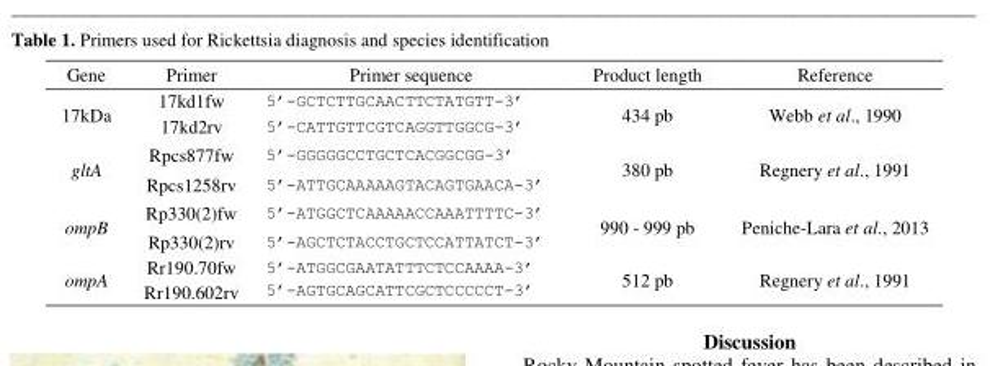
<table><thead><tr><td>Gene</td><td>Primer</td><td>Primer sequence</td><td>Product length</td><td>Reference</td></tr></thead><tbody><tr><td rowspan="2">17kDa</td><td>17kd1fw</td><td>5’-GCTCTTGCAACTTCTATGTT-3’</td><td rowspan="2">434 pb</td><td rowspan="2">Webb et al., 1990</td></tr><tr><td>17kd2rv</td><td>5’-CATTGTTCGTCAGGTTGGCG-3’</td></tr><tr><td rowspan="2">gltA</td><td>Rpcs877fw</td><td>5’-GGGGGCCTGCTCACGGCGG-3’</td><td rowspan="2">380 pb</td><td rowspan="2">Regnery et al., 1991</td></tr><tr><td>Rpcs1258rv</td><td>5’-ATTGCAAAAAGTACAGTGAACA-3’</td></tr><tr><td rowspan="2">ompB</td><td>Rp330(2)fw</td><td>5’-ATGGCTCAAAAACCAAATTTTC-3’</td><td rowspan="2">990 - 999 pb</td><td rowspan="2">Peniche-Lara et al., 2013</td></tr><tr><td>Rp330(2)rv</td><td>5’-AGCTCTACCTGCTCCATTATCT-3’</td></tr><tr><td rowspan="2">ompA</td><td>Rr190.70fw</td><td>5’-ATGGCGAATATTTCTCCAAAA-3’</td><td rowspan="2">512 pb</td><td rowspan="2">Regnery et al., 1991</td></tr><tr><td>Rr190.602rv</td><td>5’-AGTGCAGCATTCGCTCCCCCT-3’</td></tr></tbody></table>